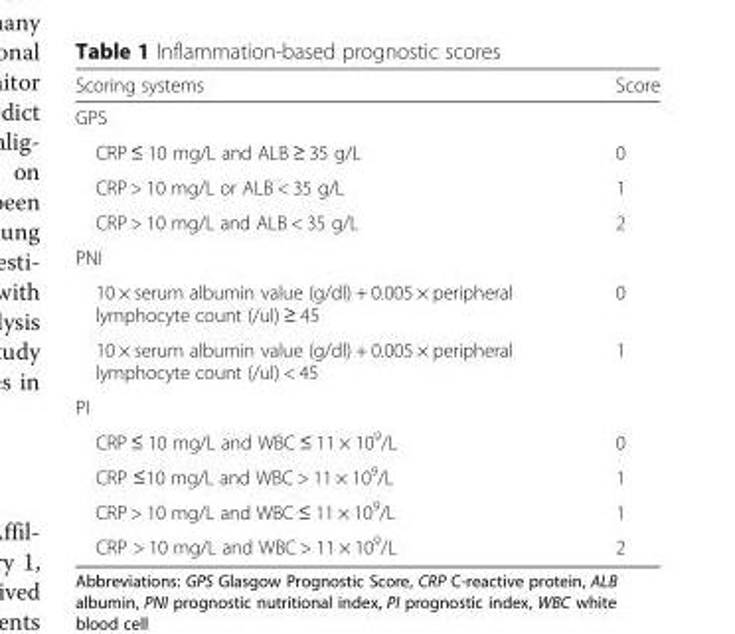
<table><thead><tr><td>Scoring systems</td><td>Score</td></tr></thead><tbody><tr><td colspan="2">GPS</td></tr><tr><td>CRP ≤ 10 mg/L and ALB ≥ 35 g/L</td><td>0</td></tr><tr><td>CRP &gt; 10 mg/L or ALB &lt; 35 g/L</td><td>1</td></tr><tr><td>CRP &gt; 10 mg/L and ALB &lt; 35 g/L</td><td>2</td></tr><tr><td colspan="2">PNI</td></tr><tr><td>10 × serum albumin value (g/dl) + 0.005 × peripheral lymphocyte count (/ul) ≥ 45</td><td>0</td></tr><tr><td>10 × serum albumin value (g/dl) + 0.005 × peripheral lymphocyte count (/ul) &lt; 45</td><td>1</td></tr><tr><td colspan="2">PI</td></tr><tr><td>CRP ≤ 10 mg/L and WBC ≤ 11 × 10<sup>9</sup>/L</td><td>0</td></tr><tr><td>CRP ≤10 mg/L and WBC &gt; 11 × 10<sup>9</sup>/L</td><td>1</td></tr><tr><td>CRP &gt; 10 mg/L and WBC ≤ 11 × 10<sup>9</sup>/L</td><td>1</td></tr><tr><td>CRP &gt; 10 mg/L and WBC &gt; 11 × 10<sup>9</sup>/L</td><td>2</td></tr></tbody></table>